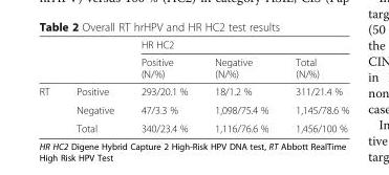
<table><thead><tr><td rowspan="2"></td><td rowspan="2"></td><td colspan="3">HR HC2</td></tr><tr><td>Positive (N/%)</td><td>Negative (N/%)</td><td>Total (N/%)</td></tr></thead><tbody><tr><td rowspan="3">RT</td><td>Positive</td><td>293/20.1 %</td><td>18/1.2 %</td><td>311/21.4 %</td></tr><tr><td>Negative</td><td>47/3.3 %</td><td>1,098/75.4 %</td><td>1,145/78.6 %</td></tr><tr><td>Total</td><td>340/23.4 %</td><td>1,116/76.6 %</td><td>1,456/100 %</td></tr></tbody></table>